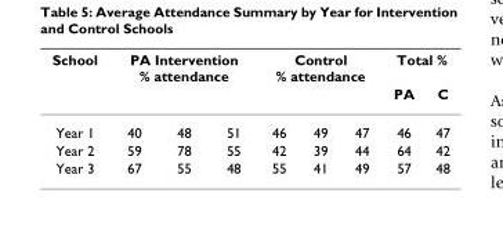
<table><thead><tr><td rowspan="2">School</td><td colspan="3">PA Intervention % attendance</td><td colspan="3">Control % attendance</td><td colspan="2">Total %</td></tr><tr><td></td><td></td><td></td><td></td><td></td><td></td><td>PA</td><td>C</td></tr></thead><tbody><tr><td>Year 1</td><td>40</td><td>48</td><td>51</td><td>46</td><td>49</td><td>47</td><td>46</td><td>47</td></tr><tr><td>Year 2</td><td>59</td><td>78</td><td>55</td><td>42</td><td>39</td><td>44</td><td>64</td><td>42</td></tr><tr><td>Year 3</td><td>67</td><td>55</td><td>48</td><td>55</td><td>41</td><td>49</td><td>57</td><td>48</td></tr></tbody></table>